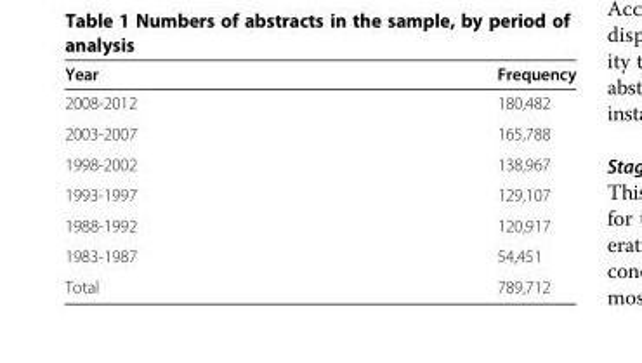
<table><thead><tr><td>Year</td><td>Frequency</td></tr></thead><tbody><tr><td>2008-2012</td><td>180,482</td></tr><tr><td>2003-2007</td><td>165,788</td></tr><tr><td>1998-2002</td><td>138,967</td></tr><tr><td>1993-1997</td><td>129,107</td></tr><tr><td>1988-1992</td><td>120,917</td></tr><tr><td>1983-1987</td><td>54,451</td></tr><tr><td>Total</td><td>789,712</td></tr></tbody></table>